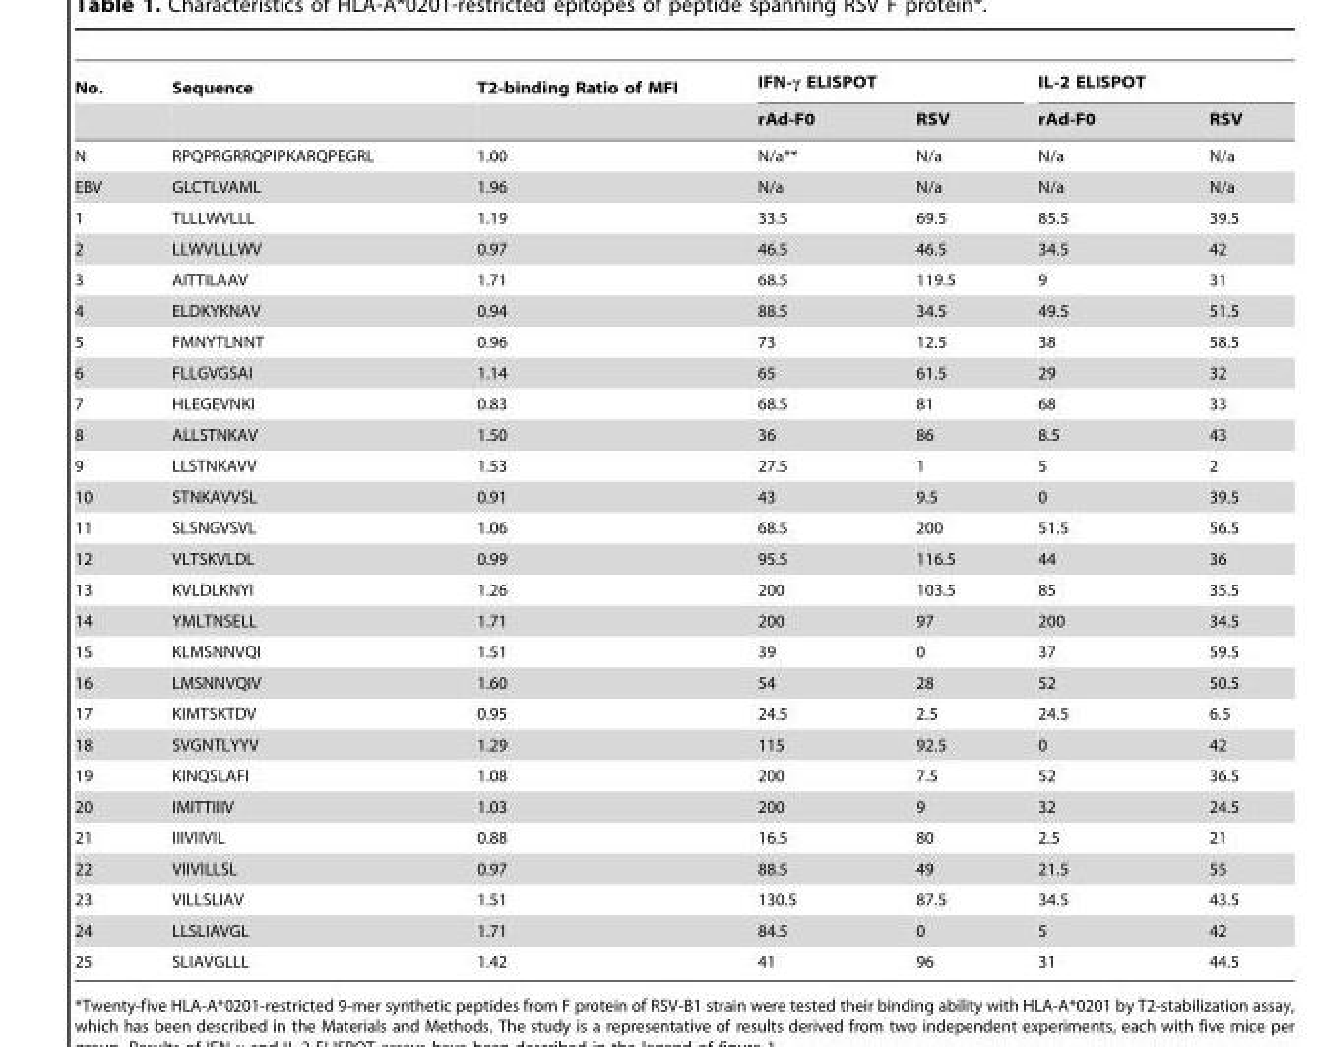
<table><thead><tr><td rowspan="2">No.</td><td rowspan="2">Sequence</td><td rowspan="2">T2-binding Ratio of MFI</td><td colspan="2">IFN-γ ELISPOT</td><td colspan="2">IL-2 ELISPOT</td></tr><tr><td>rAd-F0</td><td>RSV</td><td>rAd-F0</td><td>RSV</td></tr></thead><tbody><tr><td>N</td><td>RPQPRGRRQPIPKARQPEGRL</td><td>1.00</td><td>N/a**</td><td>N/a</td><td>N/a</td><td>N/a</td></tr><tr><td>EBV</td><td>GLCTLVAML</td><td>1.96</td><td>N/a</td><td>N/a</td><td>N/a</td><td>N/a</td></tr><tr><td>1</td><td>TLLLWVLLL</td><td>1.19</td><td>33.5</td><td>69.5</td><td>85.5</td><td>39.5</td></tr><tr><td>2</td><td>LLWVLLLWV</td><td>0.97</td><td>46.5</td><td>46.5</td><td>34.5</td><td>42</td></tr><tr><td>3</td><td>AITTILAAV</td><td>1.71</td><td>68.5</td><td>119.5</td><td>9</td><td>31</td></tr><tr><td>4</td><td>ELDKYKNAV</td><td>0.94</td><td>88.5</td><td>34.5</td><td>49.5</td><td>51.5</td></tr><tr><td>5</td><td>FMNYTLNNT</td><td>0.96</td><td>73</td><td>12.5</td><td>38</td><td>58.5</td></tr><tr><td>6</td><td>FLLGVGSAI</td><td>1.14</td><td>65</td><td>61.5</td><td>29</td><td>32</td></tr><tr><td>7</td><td>HLEGEVNKI</td><td>0.83</td><td>68.5</td><td>81</td><td>68</td><td>33</td></tr><tr><td>8</td><td>ALLSTNKAV</td><td>1.50</td><td>36</td><td>86</td><td>8.5</td><td>43</td></tr><tr><td>9</td><td>LLSTNKAVV</td><td>1.53</td><td>27.5</td><td>1</td><td>5</td><td>2</td></tr><tr><td>10</td><td>STNKAVVSL</td><td>0.91</td><td>43</td><td>9.5</td><td>0</td><td>39.5</td></tr><tr><td>11</td><td>SLSNGVSVL</td><td>1.06</td><td>68.5</td><td>200</td><td>51.5</td><td>56.5</td></tr><tr><td>12</td><td>VLTSKVLDL</td><td>0.99</td><td>95.5</td><td>116.5</td><td>44</td><td>36</td></tr><tr><td>13</td><td>KVLDLKNYI</td><td>1.26</td><td>200</td><td>103.5</td><td>85</td><td>35.5</td></tr><tr><td>14</td><td>YMLTNSELL</td><td>1.71</td><td>200</td><td>97</td><td>200</td><td>34.5</td></tr><tr><td>15</td><td>KLMSNNVQI</td><td>1.51</td><td>39</td><td>0</td><td>37</td><td>59.5</td></tr><tr><td>16</td><td>LMSNNVQIV</td><td>1.60</td><td>54</td><td>28</td><td>52</td><td>50.5</td></tr><tr><td>17</td><td>KIMTSKTDV</td><td>0.95</td><td>24.5</td><td>2.5</td><td>24.5</td><td>6.5</td></tr><tr><td>18</td><td>SVGNTLYYV</td><td>1.29</td><td>115</td><td>92.5</td><td>0</td><td>42</td></tr><tr><td>19</td><td>KINQSLAFI</td><td>1.08</td><td>200</td><td>7.5</td><td>52</td><td>36.5</td></tr><tr><td>20</td><td>IMITTIIIV</td><td>1.03</td><td>200</td><td>9</td><td>32</td><td>24.5</td></tr><tr><td>21</td><td>IIIVIIVIL</td><td>0.88</td><td>16.5</td><td>80</td><td>2.5</td><td>21</td></tr><tr><td>22</td><td>VIIVILLSL</td><td>0.97</td><td>88.5</td><td>49</td><td>21.5</td><td>55</td></tr><tr><td>23</td><td>VILLSLIAV</td><td>1.51</td><td>130.5</td><td>87.5</td><td>34.5</td><td>43.5</td></tr><tr><td>24</td><td>LLSLIAVGL</td><td>1.71</td><td>84.5</td><td>0</td><td>5</td><td>42</td></tr><tr><td>25</td><td>SLIAVGLLL</td><td>1.42</td><td>41</td><td>96</td><td>31</td><td>44.5</td></tr></tbody></table>